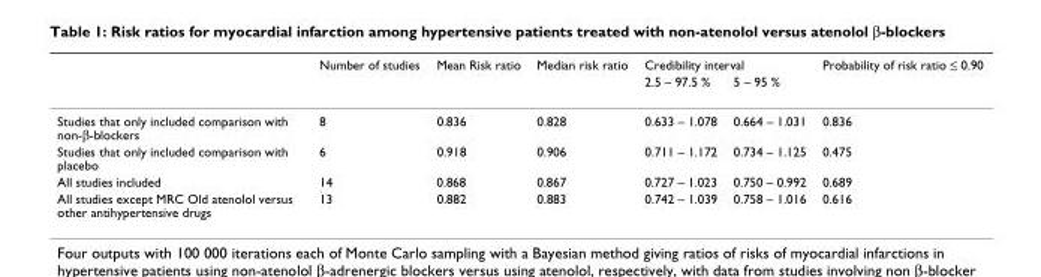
<table><thead><tr><td rowspan="2"></td><td rowspan="2">Number of studies</td><td rowspan="2">Mean Risk ratio</td><td rowspan="2">Median risk ratio</td><td colspan="2">Credibility interval</td><td rowspan="2">Probability of risk ratio ≤ 0.90</td></tr><tr><td>2.5 – 97.5 %</td><td>5 – 95 %</td></tr></thead><tbody><tr><td>Studies that only included comparison with non-β-blockers</td><td>8</td><td>0.836</td><td>0.828</td><td>0.633 – 1.078</td><td>0.664 – 1.031</td><td>0.836</td></tr><tr><td>Studies that only included comparison with placebo</td><td>6</td><td>0.918</td><td>0.906</td><td>0.711 – 1.172</td><td>0.734 – 1.125</td><td>0.475</td></tr><tr><td>All studies included</td><td>14</td><td>0.868</td><td>0.867</td><td>0.727 – 1.023</td><td>0.750 – 0.992</td><td>0.689</td></tr><tr><td>All studies except MRC Old atenolol versus other antihypertensive drugs</td><td>13</td><td>0.882</td><td>0.883</td><td>0.742 – 1.039</td><td>0.758 – 1.016</td><td>0.616</td></tr></tbody></table>